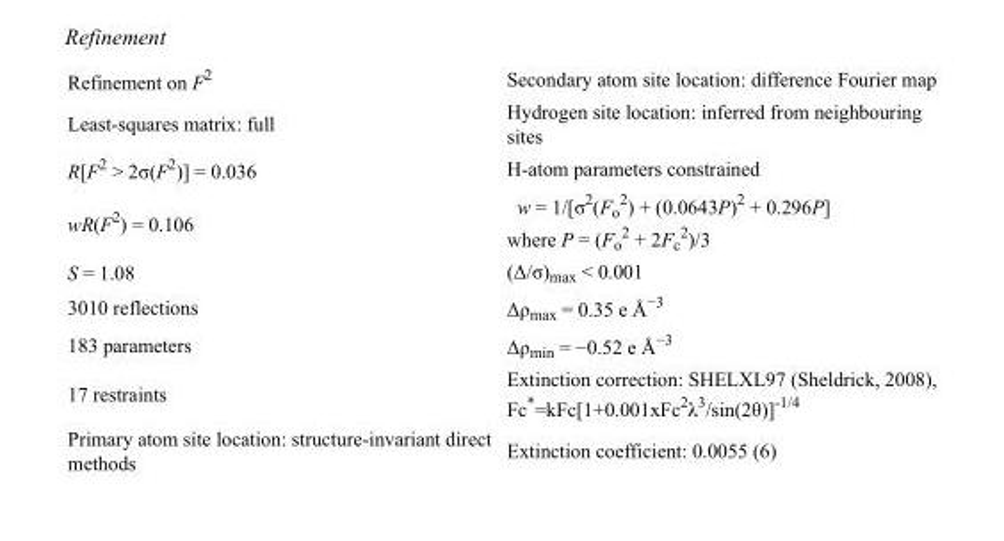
<table><tbody><tr><td>Refinement on F<sup>2</sup></td><td>Secondary atom site location: difference Fourier map</td></tr><tr><td>Least-squares matrix: full</td><td>Hydrogen site location: inferred from neighbouring sites</td></tr><tr><td>R[F<sup>2</sup> &gt; 2σ(F<sup>2</sup>)] = 0.036</td><td>H-atom parameters constrained</td></tr><tr><td>wR(F<sup>2</sup>) = 0.106</td><td>w = 1/[σ<sup>2</sup>(F<sub>o</sub> <sup>2</sup>) + (0.0643P)<sup>2</sup> + 0.296P] where P = (F<sub>o</sub> <sup>2</sup> + 2F<sub>c</sub> <sup>2</sup>)/3</td></tr><tr><td>S = 1.08</td><td>(Δ/σ)<sub>max</sub> &lt; 0.001</td></tr><tr><td>3010 reflections</td><td>Δρ<sub>max</sub> = 0.35 e Å<sup>−3</sup></td></tr><tr><td>183 parameters</td><td>Δρ<sub>min</sub> = −0.52 e Å<sup>−3</sup></td></tr><tr><td>17 restraints</td><td>Extinction correction: SHELXL97 (Sheldrick, 2008), Fc*=kFc[1+0.001xFc<sup>2</sup>λ<sup>3</sup>/sin(2θ)]<sup>-1/4</sup></td></tr><tr><td>Primary atom site location: structure-invariant direct methods</td><td>Extinction coefficient: 0.0055 (6)</td></tr></tbody></table>